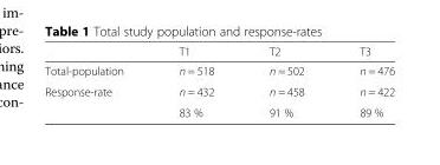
<table><thead><tr><td></td><td>T1</td><td>T2</td><td>T3</td></tr></thead><tbody><tr><td>Total-population</td><td>n = 518</td><td>n = 502</td><td>n = 476</td></tr><tr><td rowspan="2">Response-rate</td><td>n = 432</td><td>n = 458</td><td>n = 422</td></tr><tr><td>83 %</td><td>91 %</td><td>89 %</td></tr></tbody></table>